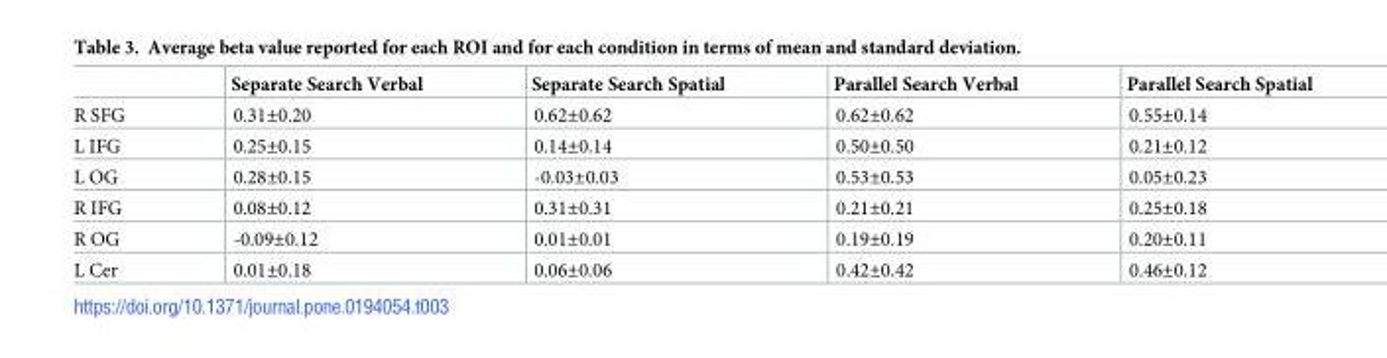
<table><thead><tr><td></td><td>Separate Search Verbal</td><td>Separate Search Spatial</td><td>Parallel Search Verbal</td><td>Parallel Search Spatial</td></tr></thead><tbody><tr><td>R SFG</td><td>0.31±0.20</td><td>0.62±0.62</td><td>0.62±0.62</td><td>0.55±0.14</td></tr><tr><td>L IFG</td><td>0.25±0.15</td><td>0.14±0.14</td><td>0.50±0.50</td><td>0.21±0.12</td></tr><tr><td>L OG</td><td>0.28±0.15</td><td>-0.03±0.03</td><td>0.53±0.53</td><td>0.05±0.23</td></tr><tr><td>R IFG</td><td>0.08±0.12</td><td>0.31±0.31</td><td>0.21±0.21</td><td>0.25±0.18</td></tr><tr><td>R OG</td><td>-0.09±0.12</td><td>0.01±0.01</td><td>0.19±0.19</td><td>0.20±0.11</td></tr><tr><td>L Cer</td><td>0.01±0.18</td><td>0.06±0.06</td><td>0.42±0.42</td><td>0.46±0.12</td></tr></tbody></table>